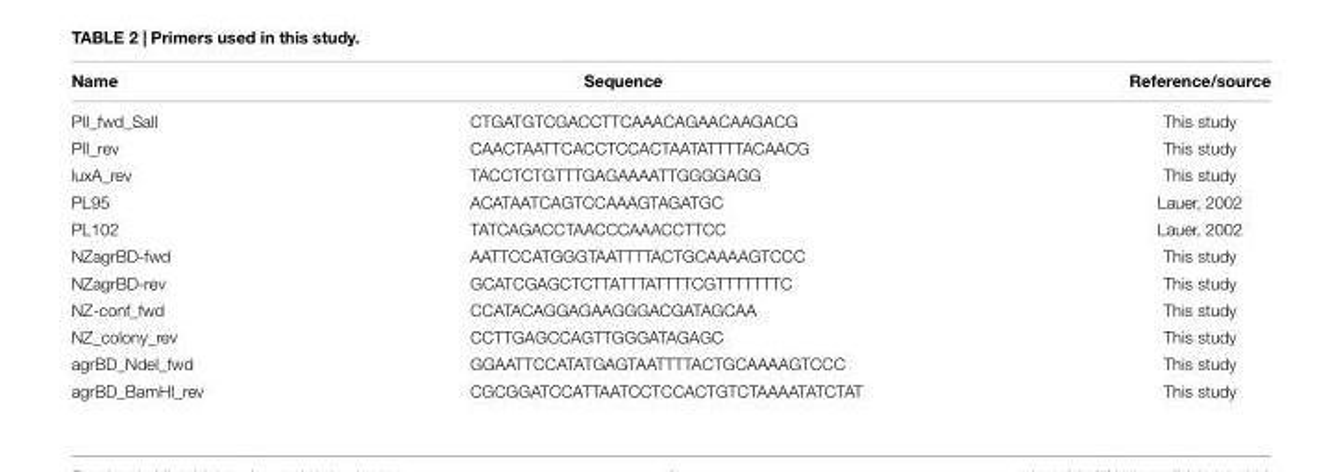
<table><thead><tr><td>Name</td><td>Sequence</td><td>Reference/source</td></tr></thead><tbody><tr><td>PII_fwd_SalI</td><td>CTGATGTCGACCTTCAAACAGAACAAGACG</td><td>This study</td></tr><tr><td>PII_rev</td><td>CAACTAATTCACCTCCACTAATATTTTACAACG</td><td>This study</td></tr><tr><td>luxA_rev</td><td>TACCTCTGTTTGAGAAAATTGGGGAGG</td><td>This study</td></tr><tr><td>PL95</td><td>ACATAATCAGTCCAAAGTAGATGC</td><td>Lauer, 2002</td></tr><tr><td>PL102</td><td>TATCAGACCTAACCCAAACCTTCC</td><td>Lauer, 2002</td></tr><tr><td>NZagrBD-fwd</td><td>AATTCCATGGGTAATTTTACTGCAAAAGTCCC</td><td>This study</td></tr><tr><td>NZagrBD-rev</td><td>GCATCGAGCTCTTATTTATTTTCGTTTTTTTC</td><td>This study</td></tr><tr><td>NZ-conf_fwd</td><td>CCATACAGGAGAAGGGACGATAGCAA</td><td>This study</td></tr><tr><td>NZ_colony_rev</td><td>CCTTGAGCCAGTTGGGATAGAGC</td><td>This study</td></tr><tr><td>agrBD_NdeI_fwd</td><td>GGAATTCCATATGAGTAATTTTACTGCAAAAGTCCC</td><td>This study</td></tr><tr><td>agrBD_BamHI_rev</td><td>CGCGGATCCATTAATCCTCCACTGTCTAAAATATCTAT</td><td>This study</td></tr></tbody></table>